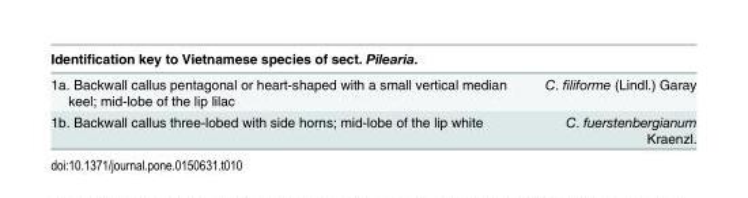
<table><thead><tr><td>Identification key to Vietnamese species of sect. Pilearia.</td><td></td></tr></thead><tbody><tr><td>1a. Backwall callus pentagonal or heart-shaped with a small vertical median keel; mid-lobe of the lip lilac</td><td>C. filiforme (Lindl.) Garay</td></tr><tr><td>1b. Backwall callus three-lobed with side horns; mid-lobe of the lip white</td><td>C. fuerstenbergianum Kraenzl.</td></tr></tbody></table>